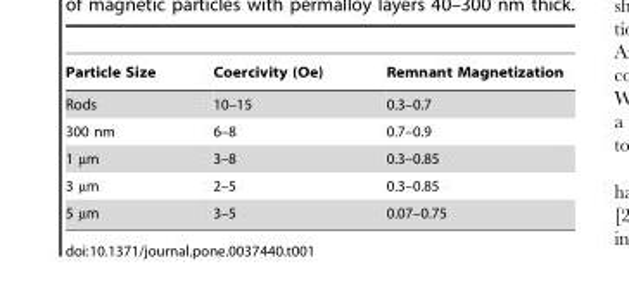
<table><thead><tr><td>Particle Size</td><td>Coercivity (Oe)</td><td>Remnant Magnetization</td></tr></thead><tbody><tr><td>Rods</td><td>10–15</td><td>0.3–0.7</td></tr><tr><td>300 nm</td><td>6–8</td><td>0.7–0.9</td></tr><tr><td>1 µm</td><td>3–8</td><td>0.3–0.85</td></tr><tr><td>3 µm</td><td>2–5</td><td>0.3–0.85</td></tr><tr><td>5 µm</td><td>3–5</td><td>0.07–0.75</td></tr></tbody></table>